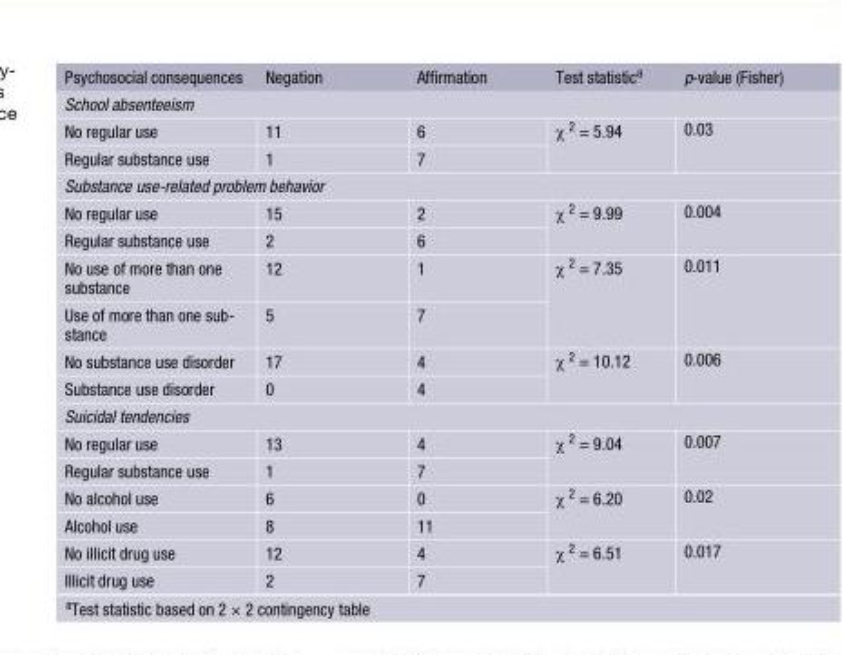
<table><thead><tr><td>Psychosocial consequences</td><td>Negation</td><td>Affirmation</td><td>Test statistic<sup>a</sup></td><td>p-value (Fisher)</td></tr></thead><tbody><tr><td colspan="5">School absenteeism</td></tr><tr><td>No regular use</td><td>11</td><td>6</td><td rowspan="2">χ <sup>2</sup> = 5.94</td><td rowspan="2">0.03</td></tr><tr><td>Regular substance use</td><td>1</td><td>7</td></tr><tr><td colspan="5">Substance use-related problem behavior</td></tr><tr><td>No regular use</td><td>15</td><td>2</td><td rowspan="2">χ <sup>2</sup> = 9.99</td><td rowspan="2">0.004</td></tr><tr><td>Regular substance use</td><td>2</td><td>6</td></tr><tr><td>No use of more than one substance</td><td>12</td><td>1</td><td rowspan="2">χ <sup>2</sup> = 7.35</td><td rowspan="2">0.011</td></tr><tr><td>Use of more than one sub- stance</td><td>5</td><td>7</td></tr><tr><td>No substance use disorder</td><td>17</td><td>4</td><td rowspan="2">χ <sup>2</sup> = 10.12</td><td rowspan="2">0.006</td></tr><tr><td>Substance use disorder</td><td>0</td><td>4</td></tr><tr><td colspan="5">Suicidal tendencies</td></tr><tr><td>No regular use</td><td>13</td><td>4</td><td rowspan="2">χ <sup>2</sup> = 9.04</td><td rowspan="2">0.007</td></tr><tr><td>Regular substance use</td><td>1</td><td>7</td></tr><tr><td>No alcohol use</td><td>6</td><td>0</td><td rowspan="2">χ <sup>2</sup> = 6.20</td><td rowspan="2">0.02</td></tr><tr><td>Alcohol use</td><td>8</td><td>11</td></tr><tr><td>No illicit drug use</td><td>12</td><td>4</td><td rowspan="2">χ <sup>2</sup> = 6.51</td><td rowspan="2">0.017</td></tr><tr><td>Illicit drug use</td><td>2</td><td>7</td></tr></tbody></table>